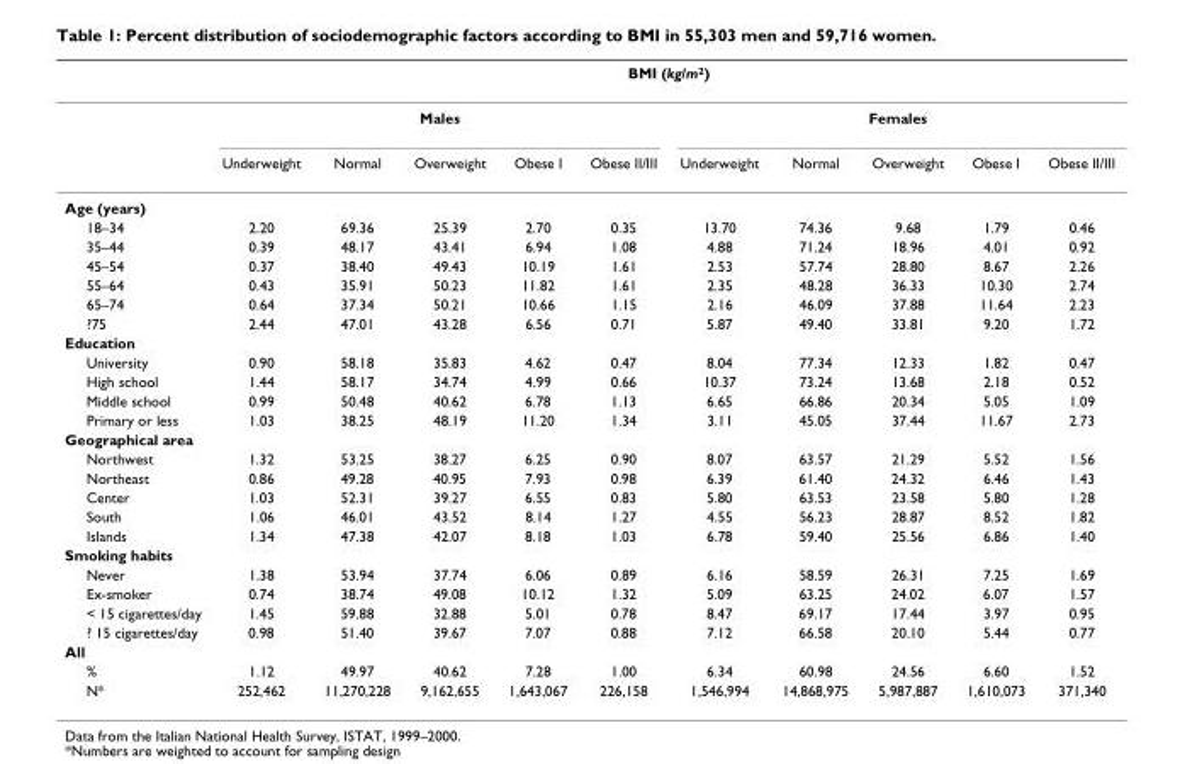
<table><thead><tr><td rowspan="3"></td><td colspan="10">BMI (kg/m<sup>2</sup>)</td></tr><tr><td colspan="5">Males</td><td colspan="5">Females</td></tr><tr><td>Underweight</td><td>Normal</td><td>Overweight</td><td>Obese I</td><td>Obese II/III</td><td>Underweight</td><td>Normal</td><td>Overweight</td><td>Obese I</td><td>Obese II/III</td></tr></thead><tbody><tr><td colspan="11">Age (years)</td></tr><tr><td>18–34</td><td>2.20</td><td>69.36</td><td>25.39</td><td>2.70</td><td>0.35</td><td>13.70</td><td>74.36</td><td>9.68</td><td>1.79</td><td>0.46</td></tr><tr><td>35–44</td><td>0.39</td><td>48.17</td><td>43.41</td><td>6.94</td><td>1.08</td><td>4.88</td><td>71.24</td><td>18.96</td><td>4.01</td><td>0.92</td></tr><tr><td>45–54</td><td>0.37</td><td>38.40</td><td>49.43</td><td>10.19</td><td>1.61</td><td>2.53</td><td>57.74</td><td>28.80</td><td>8.67</td><td>2.26</td></tr><tr><td>55–64</td><td>0.43</td><td>35.91</td><td>50.23</td><td>11.82</td><td>1.61</td><td>2.35</td><td>48.28</td><td>36.33</td><td>10.30</td><td>2.74</td></tr><tr><td>65–74</td><td>0.64</td><td>37.34</td><td>50.21</td><td>10.66</td><td>1.15</td><td>2.16</td><td>46.09</td><td>37.88</td><td>11.64</td><td>2.23</td></tr><tr><td>≥75</td><td>2.44</td><td>47.01</td><td>43.28</td><td>6.56</td><td>0.71</td><td>5.87</td><td>49.40</td><td>33.81</td><td>9.20</td><td>1.72</td></tr><tr><td colspan="11">Education</td></tr><tr><td>University</td><td>0.90</td><td>58.18</td><td>35.83</td><td>4.62</td><td>0.47</td><td>8.04</td><td>77.34</td><td>12.33</td><td>1.82</td><td>0.47</td></tr><tr><td>High school</td><td>1.44</td><td>58.17</td><td>34.74</td><td>4.99</td><td>0.66</td><td>10.37</td><td>73.24</td><td>13.68</td><td>2.18</td><td>0.52</td></tr><tr><td>Middle school</td><td>0.99</td><td>50.48</td><td>40.62</td><td>6.78</td><td>1.13</td><td>6.65</td><td>66.86</td><td>20.34</td><td>5.05</td><td>1.09</td></tr><tr><td>Primary or less</td><td>1.03</td><td>38.25</td><td>48.19</td><td>11.20</td><td>1.34</td><td>3.11</td><td>45.05</td><td>37.44</td><td>11.67</td><td>2.73</td></tr><tr><td colspan="11">Geographical area</td></tr><tr><td>Northwest</td><td>1.32</td><td>53.25</td><td>38.27</td><td>6.25</td><td>0.90</td><td>8.07</td><td>63.57</td><td>21.29</td><td>5.52</td><td>1.56</td></tr><tr><td>Northeast</td><td>0.86</td><td>49.28</td><td>40.95</td><td>7.93</td><td>0.98</td><td>6.39</td><td>61.40</td><td>24.32</td><td>6.46</td><td>1.43</td></tr><tr><td>Center</td><td>1.03</td><td>52.31</td><td>39.27</td><td>6.55</td><td>0.83</td><td>5.80</td><td>63.53</td><td>23.58</td><td>5.80</td><td>1.28</td></tr><tr><td>South</td><td>1.06</td><td>46.01</td><td>43.52</td><td>8.14</td><td>1.27</td><td>4.55</td><td>56.23</td><td>28.87</td><td>8.52</td><td>1.82</td></tr><tr><td>Islands</td><td>1.34</td><td>47.38</td><td>42.07</td><td>8.18</td><td>1.03</td><td>6.78</td><td>59.40</td><td>25.56</td><td>6.86</td><td>1.40</td></tr><tr><td colspan="11">Smoking habits</td></tr><tr><td>Never</td><td>1.38</td><td>53.94</td><td>37.74</td><td>6.06</td><td>0.89</td><td>6.16</td><td>58.59</td><td>26.31</td><td>7.25</td><td>1.69</td></tr><tr><td>Ex-smoker</td><td>0.74</td><td>38.74</td><td>49.08</td><td>10.12</td><td>1.32</td><td>5.09</td><td>63.25</td><td>24.02</td><td>6.07</td><td>1.57</td></tr><tr><td>&lt; 15 cigarettes/day</td><td>1.45</td><td>59.88</td><td>32.88</td><td>5.01</td><td>0.78</td><td>8.47</td><td>69.17</td><td>17.44</td><td>3.97</td><td>0.95</td></tr><tr><td>≥ 15 cigarettes/day</td><td>0.98</td><td>51.40</td><td>39.67</td><td>7.07</td><td>0.88</td><td>7.12</td><td>66.58</td><td>20.10</td><td>5.44</td><td>0.77</td></tr><tr><td colspan="11">All</td></tr><tr><td>%</td><td>1.12</td><td>49.97</td><td>40.62</td><td>7.28</td><td>1.00</td><td>6.34</td><td>60.98</td><td>24.56</td><td>6.60</td><td>1.52</td></tr><tr><td>N*</td><td>252,462</td><td>11,270,228</td><td>9,162,655</td><td>1,643,067</td><td>226,158</td><td>1,546,994</td><td>14,868,975</td><td>5,987,887</td><td>1,610,073</td><td>371,340</td></tr></tbody></table>